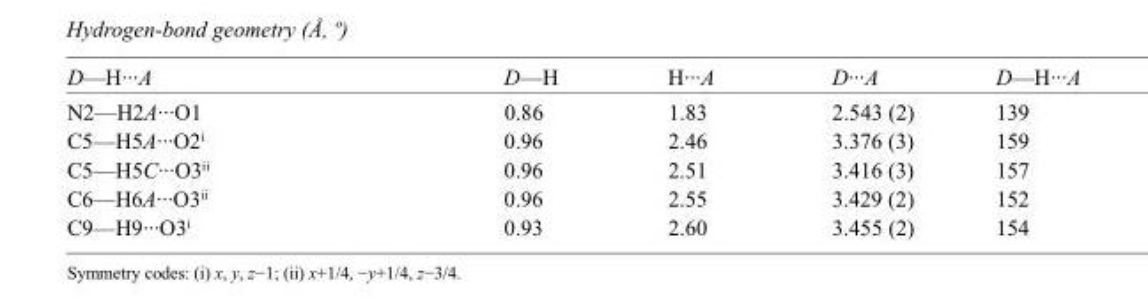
<table><tbody><tr><td>D—H···A</td><td>D—H</td><td>H···A</td><td>D···A</td><td>D—H···A</td></tr><tr><td>N2—H2A···O1</td><td>0.86</td><td>1.83</td><td>2.543 (2)</td><td>139</td></tr><tr><td>C5—H5A···O2<sup>i</sup></td><td>0.96</td><td>2.46</td><td>3.376 (3)</td><td>159</td></tr><tr><td>C5—H5C···O3<sup>ii</sup></td><td>0.96</td><td>2.51</td><td>3.416 (3)</td><td>157</td></tr><tr><td>C6—H6A···O3<sup>ii</sup></td><td>0.96</td><td>2.55</td><td>3.429 (2)</td><td>152</td></tr><tr><td>C9—H9···O3<sup>i</sup></td><td>0.93</td><td>2.60</td><td>3.455 (2)</td><td>154</td></tr></tbody></table>